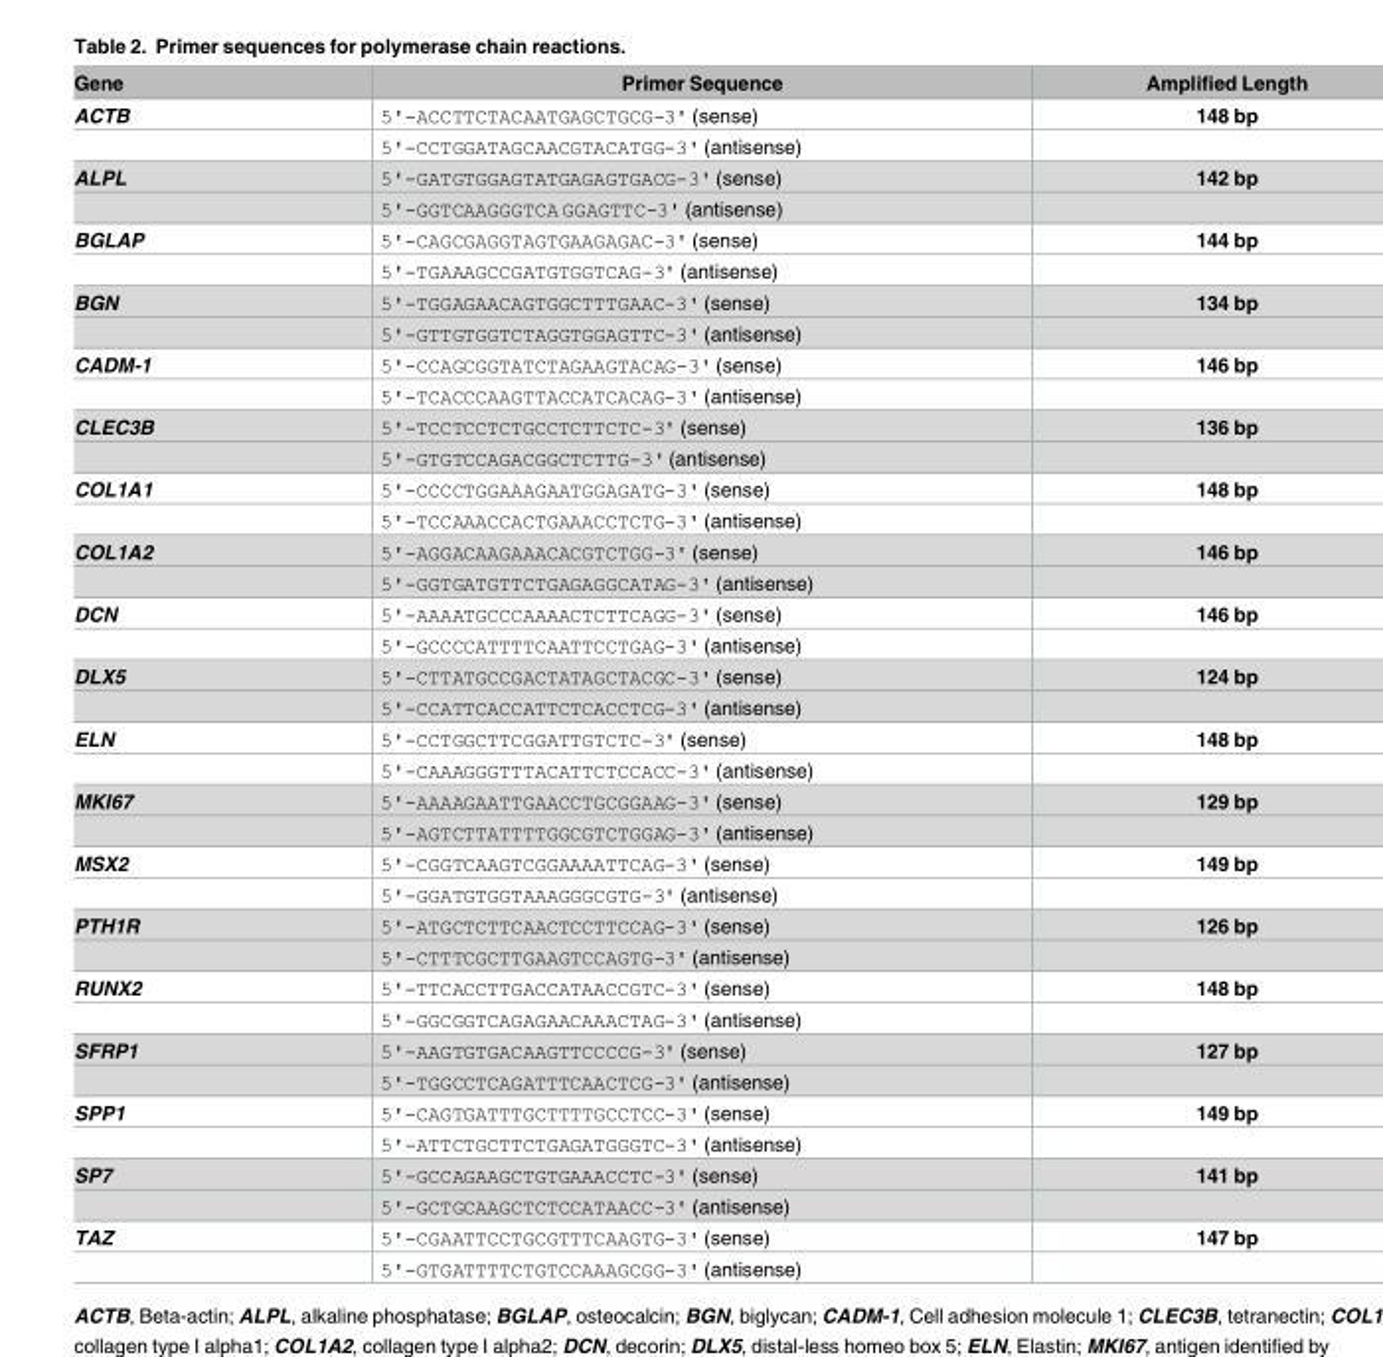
<table><thead><tr><td>Gene</td><td>Primer Sequence</td><td>Amplified Length</td></tr></thead><tbody><tr><td rowspan="2">ACTB</td><td>5&#x27;-ACCTTCTACAATGAGCTGCG-3&#x27; (sense)</td><td>148 bp</td></tr><tr><td>5&#x27;-CCTGGATAGCAACGTACATGG-3&#x27; (antisense)</td><td></td></tr><tr><td rowspan="2">ALPL</td><td>5&#x27;-GATGTGGAGTATGAGAGTGACG-3&#x27; (sense)</td><td>142 bp</td></tr><tr><td>5&#x27;-GGTCAAGGGTCA GGAGTTC-3&#x27; (antisense)</td><td></td></tr><tr><td rowspan="2">BGLAP</td><td>5&#x27;-CAGCGAGGTAGTGAAGAGAC-3&#x27; (sense)</td><td>144 bp</td></tr><tr><td>5&#x27;-TGAAAGCCGATGTGGTCAG-3&#x27; (antisense)</td><td></td></tr><tr><td rowspan="2">BGN</td><td>5&#x27;-TGGAGAACAGTGGCTTTGAAC-3&#x27; (sense)</td><td>134 bp</td></tr><tr><td>5&#x27;-GTTGTGGTCTAGGTGGAGTTC-3&#x27; (antisense)</td><td></td></tr><tr><td rowspan="2">CADM-1</td><td>5&#x27;-CCAGCGGTATCTAGAAGTACAG-3&#x27; (sense)</td><td>146 bp</td></tr><tr><td>5&#x27;-TCACCCAAGTTACCATCACAG-3&#x27; (antisense)</td><td></td></tr><tr><td rowspan="2">CLEC3B</td><td>5&#x27;-TCCTCCTCTGCCTCTTCTC-3&#x27; (sense)</td><td>136 bp</td></tr><tr><td>5&#x27;-GTGTCCAGACGGCTCTTG-3&#x27; (antisense)</td><td></td></tr><tr><td rowspan="2">COL1A1</td><td>5&#x27;-CCCCTGGAAAGAATGGAGATG-3&#x27; (sense)</td><td>148 bp</td></tr><tr><td>5&#x27;-TCCAAACCACTGAAACCTCTG-3&#x27; (antisense)</td><td></td></tr><tr><td rowspan="2">COL1A2</td><td>5&#x27;-AGGACAAGAAACACGTCTGG-3&#x27; (sense)</td><td>146 bp</td></tr><tr><td>5&#x27;-GGTGATGTTCTGAGAGGCATAG-3&#x27; (antisense)</td><td></td></tr><tr><td rowspan="2">DCN</td><td>5&#x27;-AAAATGCCCAAAACTCTTCAGG-3&#x27; (sense)</td><td>146 bp</td></tr><tr><td>5&#x27;-GCCCCATTTTCAATTCCTGAG-3&#x27; (antisense)</td><td></td></tr><tr><td rowspan="2">DLX5</td><td>5&#x27;-CTTATGCCGACTATAGCTACGC-3&#x27; (sense)</td><td>124 bp</td></tr><tr><td>5&#x27;-CCATTCACCATTCTCACCTCG-3&#x27; (antisense)</td><td></td></tr><tr><td rowspan="2">ELN</td><td>5&#x27;-CCTGGCTTCGGATTGTCTC-3&#x27; (sense)</td><td>148 bp</td></tr><tr><td>5&#x27;-CAAAGGGTTTACATTCTCCACC-3&#x27; (antisense)</td><td></td></tr><tr><td rowspan="2">MKI67</td><td>5&#x27;-AAAAGAATTGAACCTGCGGAAG-3&#x27; (sense)</td><td>129 bp</td></tr><tr><td>5&#x27;-AGTCTTATTTTGGCGTCTGGAG-3&#x27; (antisense)</td><td></td></tr><tr><td rowspan="2">MSX2</td><td>5&#x27;-CGGTCAAGTCGGAAAATTCAG-3&#x27; (sense)</td><td>149 bp</td></tr><tr><td>5&#x27;-GGATGTGGTAAAGGGCGTG-3&#x27; (antisense)</td><td></td></tr><tr><td rowspan="2">PTH1R</td><td>5&#x27;-ATGCTCTTCAACTCCTTCCAG-3&#x27; (sense)</td><td>126 bp</td></tr><tr><td>5&#x27;-CTTTCGCTTGAAGTCCAGTG-3&#x27; (antisense)</td><td></td></tr><tr><td rowspan="2">RUNX2</td><td>5&#x27;-TTCACCTTGACCATAACCGTC-3&#x27; (sense)</td><td>148 bp</td></tr><tr><td>5&#x27;-GGCGGTCAGAGAACAAACTAG-3&#x27; (antisense)</td><td></td></tr><tr><td rowspan="2">SFRP1</td><td>5&#x27;-AAGTGTGACAAGTTCCCCG-3&#x27; (sense)</td><td>127 bp</td></tr><tr><td>5&#x27;-TGGCCTCAGATTTCAACTCG-3&#x27; (antisense)</td><td></td></tr><tr><td rowspan="2">SPP1</td><td>5&#x27;-CAGTGATTTGCTTTTGCCTCC-3&#x27; (sense)</td><td>149 bp</td></tr><tr><td>5&#x27;-ATTCTGCTTCTGAGATGGGTC-3&#x27; (antisense)</td><td></td></tr><tr><td rowspan="2">SP7</td><td>5&#x27;-GCCAGAAGCTGTGAAACCTC-3&#x27; (sense)</td><td>141 bp</td></tr><tr><td>5&#x27;-GCTGCAAGCTCTCCATAACC-3&#x27; (antisense)</td><td></td></tr><tr><td rowspan="2">TAZ</td><td>5&#x27;-CGAATTCCTGCGTTTCAAGTG-3&#x27; (sense)</td><td>147 bp</td></tr><tr><td>5&#x27;-GTGATTTTCTGTCCAAAGCGG-3&#x27; (antisense)</td><td></td></tr></tbody></table>